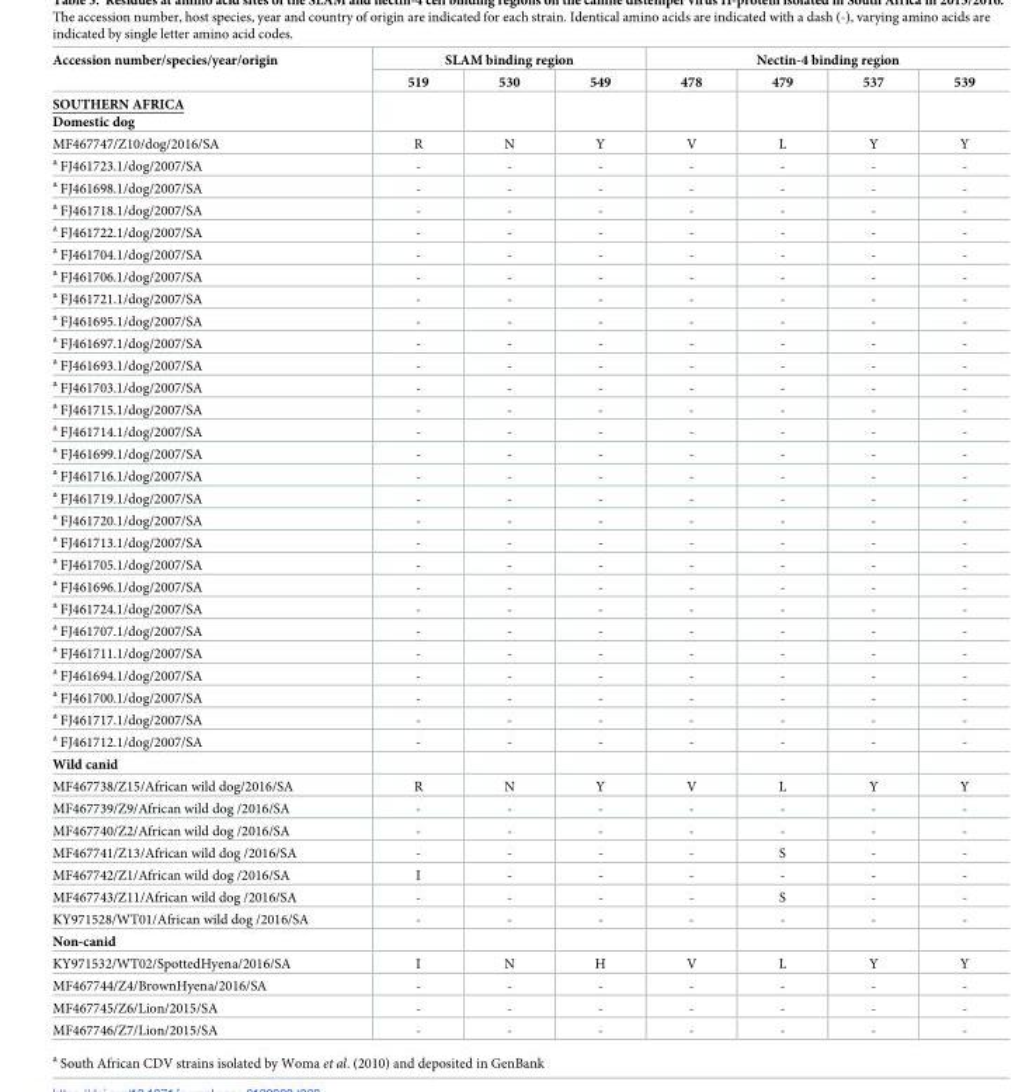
<table><thead><tr><td rowspan="2">Accession number/species/year/origin</td><td colspan="3">SLAM binding region</td><td colspan="4">Nectin-4 binding region</td></tr><tr><td>519</td><td>530</td><td>549</td><td>478</td><td>479</td><td>537</td><td>539</td></tr></thead><tbody><tr><td colspan="8">SOUTHERN AFRICA Domestic dog</td></tr><tr><td>MF467747/Z10/dog/2016/SA</td><td>R</td><td>N</td><td>Y</td><td>V</td><td>L</td><td>Y</td><td>Y</td></tr><tr><td><sup>a</sup> FJ461723.1/dog/2007/SA</td><td>-</td><td>-</td><td>-</td><td>-</td><td>-</td><td>-</td><td>-</td></tr><tr><td><sup>a</sup> FJ461698.1/dog/2007/SA</td><td>-</td><td>-</td><td>-</td><td>-</td><td>-</td><td>-</td><td>-</td></tr><tr><td><sup>a</sup> FJ461718.1/dog/2007/SA</td><td>-</td><td>-</td><td>-</td><td>-</td><td>-</td><td>-</td><td>-</td></tr><tr><td><sup>a</sup> FJ461722.1/dog/2007/SA</td><td>-</td><td>-</td><td>-</td><td>-</td><td>-</td><td>-</td><td>-</td></tr><tr><td><sup>a</sup> FJ461704.1/dog/2007/SA</td><td>-</td><td>-</td><td>-</td><td>-</td><td>-</td><td>-</td><td>-</td></tr><tr><td><sup>a</sup> FJ461706.1/dog/2007/SA</td><td>-</td><td>-</td><td>-</td><td>-</td><td>-</td><td>-</td><td>-</td></tr><tr><td><sup>a</sup> FJ461721.1/dog/2007/SA</td><td>-</td><td>-</td><td>-</td><td>-</td><td>-</td><td>-</td><td>-</td></tr><tr><td><sup>a</sup> FJ461695.1/dog/2007/SA</td><td>-</td><td>-</td><td>-</td><td>-</td><td>-</td><td>-</td><td>-</td></tr><tr><td><sup>a</sup> FJ461697.1/dog/2007/SA</td><td>-</td><td>-</td><td>-</td><td>-</td><td>-</td><td>-</td><td>-</td></tr><tr><td><sup>a</sup> FJ461693.1/dog/2007/SA</td><td>-</td><td>-</td><td>-</td><td>-</td><td>-</td><td>-</td><td>-</td></tr><tr><td><sup>a</sup> FJ461703.1/dog/2007/SA</td><td>-</td><td>-</td><td>-</td><td>-</td><td>-</td><td>-</td><td>-</td></tr><tr><td><sup>a</sup> FJ461715.1/dog/2007/SA</td><td>-</td><td>-</td><td>-</td><td>-</td><td>-</td><td>-</td><td>-</td></tr><tr><td><sup>a</sup> FJ461714.1/dog/2007/SA</td><td>-</td><td>-</td><td>-</td><td>-</td><td>-</td><td>-</td><td>-</td></tr><tr><td><sup>a</sup> FJ461699.1/dog/2007/SA</td><td>-</td><td>-</td><td>-</td><td>-</td><td>-</td><td>-</td><td>-</td></tr><tr><td><sup>a</sup> FJ461716.1/dog/2007/SA</td><td>-</td><td>-</td><td>-</td><td>-</td><td>-</td><td>-</td><td>-</td></tr><tr><td><sup>a</sup> FJ461719.1/dog/2007/SA</td><td>-</td><td>-</td><td>-</td><td>-</td><td>-</td><td>-</td><td>-</td></tr><tr><td><sup>a</sup> FJ461720.1/dog/2007/SA</td><td>-</td><td>-</td><td>-</td><td>-</td><td>-</td><td>-</td><td>-</td></tr><tr><td><sup>a</sup> FJ461713.1/dog/2007/SA</td><td>-</td><td>-</td><td>-</td><td>-</td><td>-</td><td>-</td><td>-</td></tr><tr><td><sup>a</sup> FJ461705.1/dog/2007/SA</td><td>-</td><td>-</td><td>-</td><td>-</td><td>-</td><td>-</td><td>-</td></tr><tr><td><sup>a</sup> FJ461696.1/dog/2007/SA</td><td>-</td><td>-</td><td>-</td><td>-</td><td>-</td><td>-</td><td>-</td></tr><tr><td><sup>a</sup> FJ461724.1/dog/2007/SA</td><td>-</td><td>-</td><td>-</td><td>-</td><td>-</td><td>-</td><td>-</td></tr><tr><td><sup>a</sup> FJ461707.1/dog/2007/SA</td><td>-</td><td>-</td><td>-</td><td>-</td><td>-</td><td>-</td><td>-</td></tr><tr><td><sup>a</sup> FJ461711.1/dog/2007/SA</td><td>-</td><td>-</td><td>-</td><td>-</td><td>-</td><td>-</td><td>-</td></tr><tr><td><sup>a</sup> FJ461694.1/dog/2007/SA</td><td>-</td><td>-</td><td>-</td><td>-</td><td>-</td><td>-</td><td>-</td></tr><tr><td><sup>a</sup> FJ461700.1/dog/2007/SA</td><td>-</td><td>-</td><td>-</td><td>-</td><td>-</td><td>-</td><td>-</td></tr><tr><td><sup>a</sup> FJ461717.1/dog/2007/SA</td><td>-</td><td>-</td><td>-</td><td>-</td><td>-</td><td>-</td><td>-</td></tr><tr><td><sup>a</sup> FJ461712.1/dog/2007/SA</td><td>-</td><td>-</td><td>-</td><td>-</td><td>-</td><td>-</td><td>-</td></tr><tr><td colspan="8">Wild canid</td></tr><tr><td>MF467738/Z15/African wild dog/2016/SA</td><td>R</td><td>N</td><td>Y</td><td>V</td><td>L</td><td>Y</td><td>Y</td></tr><tr><td>MF467739/Z9/African wild dog /2016/SA</td><td>-</td><td>-</td><td>-</td><td>-</td><td>-</td><td>-</td><td>-</td></tr><tr><td>MF467740/Z2/African wild dog /2016/SA</td><td>-</td><td>-</td><td>-</td><td>-</td><td>-</td><td>-</td><td>-</td></tr><tr><td>MF467741/Z13/African wild dog /2016/SA</td><td>-</td><td>-</td><td>-</td><td>-</td><td>S</td><td>-</td><td>-</td></tr><tr><td>MF467742/Z1/African wild dog /2016/SA</td><td>I</td><td>-</td><td>-</td><td>-</td><td>-</td><td>-</td><td>-</td></tr><tr><td>MF467743/Z11/African wild dog /2016/SA</td><td>-</td><td>-</td><td>-</td><td>-</td><td>S</td><td>-</td><td>-</td></tr><tr><td>KY971528/WT01/African wild dog /2016/SA</td><td>-</td><td>-</td><td>-</td><td>-</td><td>-</td><td>-</td><td>-</td></tr><tr><td colspan="8">Non-canid</td></tr><tr><td>KY971532/WT02/SpottedHyena/2016/SA</td><td>I</td><td>N</td><td>H</td><td>V</td><td>L</td><td>Y</td><td>Y</td></tr><tr><td>MF467744/Z4/BrownHyena/2016/SA</td><td>-</td><td>-</td><td>-</td><td>-</td><td>-</td><td>-</td><td>-</td></tr><tr><td>MF467745/Z6/Lion/2015/SA</td><td>-</td><td>-</td><td>-</td><td>-</td><td>-</td><td>-</td><td>-</td></tr><tr><td>MF467746/Z7/Lion/2015/SA</td><td>-</td><td>-</td><td>-</td><td>-</td><td>-</td><td>-</td><td>-</td></tr></tbody></table>